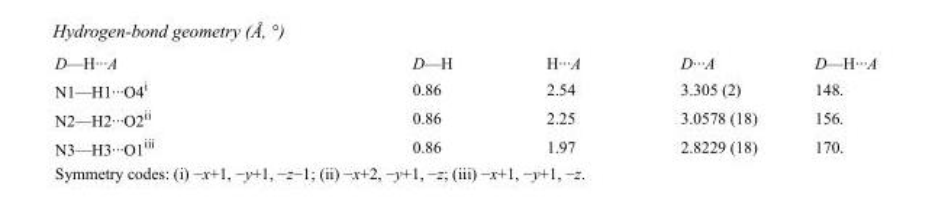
<table><tbody><tr><td>D—H···A</td><td>D—H</td><td>H···A</td><td>D···A</td><td>D—H···A</td></tr><tr><td>N1—H1···O4<sup>i</sup></td><td>0.86</td><td>2.54</td><td>3.305 (2)</td><td>148.</td></tr><tr><td>N2—H2···O2<sup>ii</sup></td><td>0.86</td><td>2.25</td><td>3.0578 (18)</td><td>156.</td></tr><tr><td>N3—H3···O1<sup>iii</sup></td><td>0.86</td><td>1.97</td><td>2.8229 (18)</td><td>170.</td></tr></tbody></table>